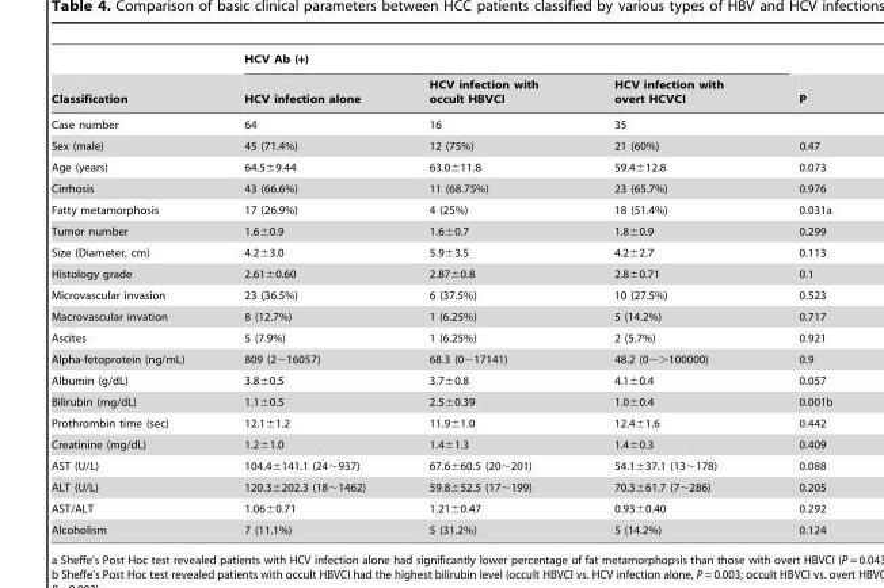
<table><thead><tr><td rowspan="2">Classification</td><td colspan="3">HCV Ab (+)</td><td rowspan="2">P</td></tr><tr><td>HCV infection alone</td><td>HCV infection with occult HBVCI</td><td>HCV infection with overt HCVCI</td></tr></thead><tbody><tr><td>Case number</td><td>64</td><td>16</td><td>35</td><td></td></tr><tr><td>Sex (male)</td><td>45 (71.4%)</td><td>12 (75%)</td><td>21 (60%)</td><td>0.47</td></tr><tr><td>Age (years)</td><td>64.5±9.44</td><td>63.0±11.8</td><td>59.4±12.8</td><td>0.073</td></tr><tr><td>Cirrhosis</td><td>43 (66.6%)</td><td>11 (68.75%)</td><td>23 (65.7%)</td><td>0.976</td></tr><tr><td>Fatty metamorphosis</td><td>17 (26.9%)</td><td>4 (25%)</td><td>18 (51.4%)</td><td>0.031a</td></tr><tr><td>Tumor number</td><td>1.6±0.9</td><td>1.6±0.7</td><td>1.8±0.9</td><td>0.299</td></tr><tr><td>Size (Diameter, cm)</td><td>4.2±3.0</td><td>5.9±3.5</td><td>4.2±2.7</td><td>0.113</td></tr><tr><td>Histology grade</td><td>2.61±0.60</td><td>2.87±0.8</td><td>2.8±0.71</td><td>0.1</td></tr><tr><td>Microvascular invasion</td><td>23 (36.5%)</td><td>6 (37.5%)</td><td>10 (27.5%)</td><td>0.523</td></tr><tr><td>Macrovascular invation</td><td>8 (12.7%)</td><td>1 (6.25%)</td><td>5 (14.2%)</td><td>0.717</td></tr><tr><td>Ascites</td><td>5 (7.9%)</td><td>1 (6.25%)</td><td>2 (5.7%)</td><td>0.921</td></tr><tr><td>Alpha-fetoprotein (ng/mL)</td><td>809 (2∼16057)</td><td>68.3 (0∼17141)</td><td>48.2 (0∼&gt;100000)</td><td>0.9</td></tr><tr><td>Albumin (g/dL)</td><td>3.8±0.5</td><td>3.7±0.8</td><td>4.1±0.4</td><td>0.057</td></tr><tr><td>Bilirubin (mg/dL)</td><td>1.1±0.5</td><td>2.5±0.39</td><td>1.0±0.4</td><td>0.001b</td></tr><tr><td>Prothrombin time (sec)</td><td>12.1±1.2</td><td>11.9±1.0</td><td>12.4±1.6</td><td>0.442</td></tr><tr><td>Creatinine (mg/dL)</td><td>1.2±1.0</td><td>1.4±1.3</td><td>1.4±0.3</td><td>0.409</td></tr><tr><td>AST (U/L)</td><td>104.4±141.1 (24∼937)</td><td>67.6±60.5 (20∼201)</td><td>54.1±37.1 (13∼178)</td><td>0.088</td></tr><tr><td>ALT (U/L)</td><td>120.3±202.3 (18∼1462)</td><td>59.8±52.5 (17∼199)</td><td>70.3±61.7 (7∼286)</td><td>0.205</td></tr><tr><td>AST/ALT</td><td>1.06±0.71</td><td>1.21±0.47</td><td>0.93±0.40</td><td>0.292</td></tr><tr><td>Alcoholism</td><td>7 (11.1%)</td><td>5 (31.2%)</td><td>5 (14.2%)</td><td>0.124</td></tr></tbody></table>